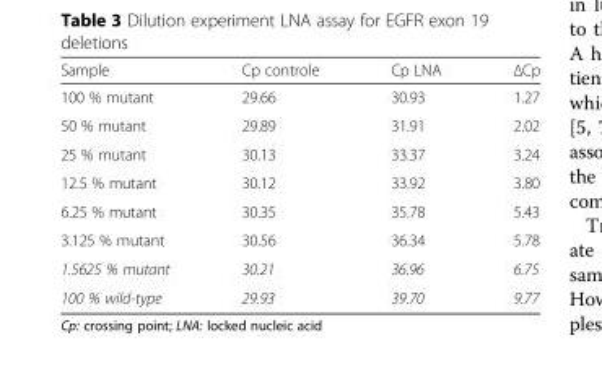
<table><thead><tr><td>Sample</td><td>Cp controle</td><td>Cp LNA</td><td>ΔCp</td></tr></thead><tbody><tr><td>100 % mutant</td><td>29.66</td><td>30.93</td><td>1.27</td></tr><tr><td>50 % mutant</td><td>29.89</td><td>31.91</td><td>2.02</td></tr><tr><td>25 % mutant</td><td>30.13</td><td>33.37</td><td>3.24</td></tr><tr><td>12.5 % mutant</td><td>30.12</td><td>33.92</td><td>3.80</td></tr><tr><td>6.25 % mutant</td><td>30.35</td><td>35.78</td><td>5.43</td></tr><tr><td>3.125 % mutant</td><td>30.56</td><td>36.34</td><td>5.78</td></tr><tr><td>1.5625 % mutant</td><td>30.21</td><td>36.96</td><td>6.75</td></tr><tr><td>100 % wild-type</td><td>29.93</td><td>39.70</td><td>9.77</td></tr></tbody></table>